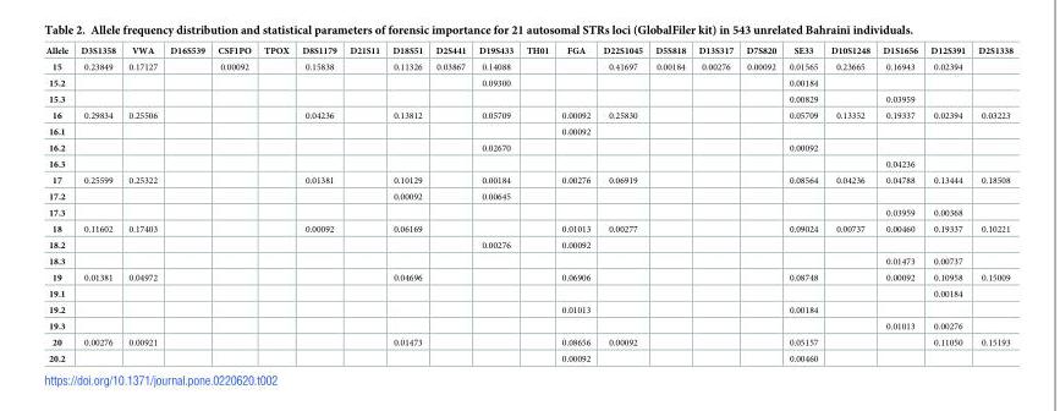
<table><thead><tr><td>Allele</td><td>D3S1358</td><td>VWA</td><td>D16S539</td><td>CSF1PO</td><td>TPOX</td><td>D8S1179</td><td>D21S11</td><td>D18S51</td><td>D2S441</td><td>D19S433</td><td>TH01</td><td>FGA</td><td>D22S1045</td><td>D5S818</td><td>D13S317</td><td>D7S820</td><td>SE33</td><td>D10S1248</td><td>D1S1656</td><td>D12S391</td><td>D2S1338</td></tr></thead><tbody><tr><td>15</td><td>0.23849</td><td>0.17127</td><td></td><td>0.00092</td><td></td><td>0.15838</td><td></td><td>0.11326</td><td>0.03867</td><td>0.14088</td><td></td><td></td><td>0.41697</td><td>0.00184</td><td>0.00276</td><td>0.00092</td><td>0.01565</td><td>0.23665</td><td>0.16943</td><td>0.02394</td><td></td></tr><tr><td>15.2</td><td></td><td></td><td></td><td></td><td></td><td></td><td></td><td></td><td></td><td>0.09300</td><td></td><td></td><td></td><td></td><td></td><td></td><td>0.00184</td><td></td><td></td><td></td><td></td></tr><tr><td>15.3</td><td></td><td></td><td></td><td></td><td></td><td></td><td></td><td></td><td></td><td></td><td></td><td></td><td></td><td></td><td></td><td></td><td>0.00829</td><td></td><td>0.03959</td><td></td><td></td></tr><tr><td>16</td><td>0.29834</td><td>0.25506</td><td></td><td></td><td></td><td>0.04236</td><td></td><td>0.13812</td><td></td><td>0.05709</td><td></td><td>0.00092</td><td>0.25830</td><td></td><td></td><td></td><td>0.05709</td><td>0.13352</td><td>0.19337</td><td>0.02394</td><td>0.03223</td></tr><tr><td>16.1</td><td></td><td></td><td></td><td></td><td></td><td></td><td></td><td></td><td></td><td></td><td></td><td>0.00092</td><td></td><td></td><td></td><td></td><td></td><td></td><td></td><td></td><td></td></tr><tr><td>16.2</td><td></td><td></td><td></td><td></td><td></td><td></td><td></td><td></td><td></td><td>0.02670</td><td></td><td></td><td></td><td></td><td></td><td></td><td>0.00092</td><td></td><td></td><td></td><td></td></tr><tr><td>16.3</td><td></td><td></td><td></td><td></td><td></td><td></td><td></td><td></td><td></td><td></td><td></td><td></td><td></td><td></td><td></td><td></td><td></td><td></td><td>0.04236</td><td></td><td></td></tr><tr><td>17</td><td>0.25599</td><td>0.25322</td><td></td><td></td><td></td><td>0.01381</td><td></td><td>0.10129</td><td></td><td>0.00184</td><td></td><td>0.00276</td><td>0.06919</td><td></td><td></td><td></td><td>0.08564</td><td>0.04236</td><td>0.04788</td><td>0.13444</td><td>0.18508</td></tr><tr><td>17.2</td><td></td><td></td><td></td><td></td><td></td><td></td><td></td><td>0.00092</td><td></td><td>0.00645</td><td></td><td></td><td></td><td></td><td></td><td></td><td></td><td></td><td></td><td></td><td></td></tr><tr><td>17.3</td><td></td><td></td><td></td><td></td><td></td><td></td><td></td><td></td><td></td><td></td><td></td><td></td><td></td><td></td><td></td><td></td><td></td><td></td><td>0.03959</td><td>0.00368</td><td></td></tr><tr><td>18</td><td>0.11602</td><td>0.17403</td><td></td><td></td><td></td><td>0.00092</td><td></td><td>0.06169</td><td></td><td></td><td></td><td>0.01013</td><td>0.00277</td><td></td><td></td><td></td><td>0.09024</td><td>0.00737</td><td>0.00460</td><td>0.19337</td><td>0.10221</td></tr><tr><td>18.2</td><td></td><td></td><td></td><td></td><td></td><td></td><td></td><td></td><td></td><td>0.00276</td><td></td><td>0.00092</td><td></td><td></td><td></td><td></td><td></td><td></td><td></td><td></td><td></td></tr><tr><td>18.3</td><td></td><td></td><td></td><td></td><td></td><td></td><td></td><td></td><td></td><td></td><td></td><td></td><td></td><td></td><td></td><td></td><td></td><td></td><td>0.01473</td><td>0.00737</td><td></td></tr><tr><td>19</td><td>0.01381</td><td>0.04972</td><td></td><td></td><td></td><td></td><td></td><td>0.04696</td><td></td><td></td><td></td><td>0.06906</td><td></td><td></td><td></td><td></td><td>0.08748</td><td></td><td>0.00092</td><td>0.10958</td><td>0.15009</td></tr><tr><td>19.1</td><td></td><td></td><td></td><td></td><td></td><td></td><td></td><td></td><td></td><td></td><td></td><td></td><td></td><td></td><td></td><td></td><td></td><td></td><td></td><td>0.00184</td><td></td></tr><tr><td>19.2</td><td></td><td></td><td></td><td></td><td></td><td></td><td></td><td></td><td></td><td></td><td></td><td>0.01013</td><td></td><td></td><td></td><td></td><td>0.00184</td><td></td><td></td><td></td><td></td></tr><tr><td>19.3</td><td></td><td></td><td></td><td></td><td></td><td></td><td></td><td></td><td></td><td></td><td></td><td></td><td></td><td></td><td></td><td></td><td></td><td></td><td>0.01013</td><td>0.00276</td><td></td></tr><tr><td>20</td><td>0.00276</td><td>0.00921</td><td></td><td></td><td></td><td></td><td></td><td>0.01473</td><td></td><td></td><td></td><td>0.08656</td><td>0.00092</td><td></td><td></td><td></td><td>0.05157</td><td></td><td></td><td>0.11050</td><td>0.15193</td></tr><tr><td>20.2</td><td></td><td></td><td></td><td></td><td></td><td></td><td></td><td></td><td></td><td></td><td></td><td>0.00092</td><td></td><td></td><td></td><td></td><td>0.00460</td><td></td><td></td><td></td><td></td></tr></tbody></table>